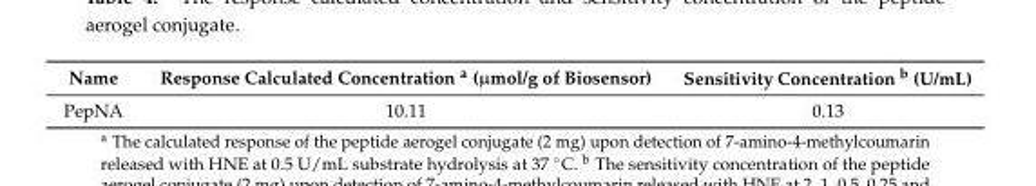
<table><thead><tr><td>Name</td><td>Response Calculated Concentration <sup>a</sup> (µmol/g of Biosensor)</td><td>Sensitivity Concentration <sup>b</sup> (U/mL)</td></tr></thead><tbody><tr><td>PepNA</td><td>10.11</td><td>0.13</td></tr></tbody></table>